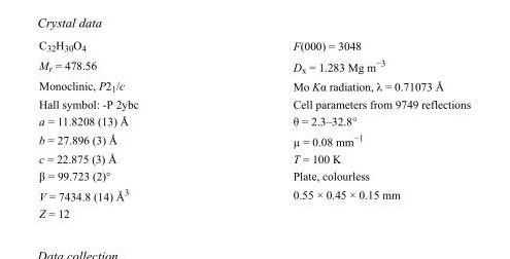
<table><tbody><tr><td>C<sub>32</sub>H<sub>30</sub>O<sub>4</sub></td><td>F(000) = 3048</td></tr><tr><td>M<sub>r</sub> = 478.56</td><td>D<sub>x</sub> = 1.283 Mg m<sup>−3</sup></td></tr><tr><td>Monoclinic, P2<sub>1</sub>/c</td><td>Mo Kα radiation, λ = 0.71073 Å</td></tr><tr><td>Hall symbol: -P 2ybc</td><td>Cell parameters from 9749 reflections</td></tr><tr><td>a = 11.8208 (13) Å</td><td>θ = 2.3–32.8°</td></tr><tr><td>b = 27.896 (3) Å</td><td>µ = 0.08 mm<sup>−1</sup></td></tr><tr><td>c = 22.875 (3) Å</td><td>T = 100 K</td></tr><tr><td>β = 99.723 (2)°</td><td>Plate, colourless</td></tr><tr><td>V = 7434.8 (14) Å<sup>3</sup></td><td>0.55 × 0.45 × 0.15 mm</td></tr><tr><td>Z = 12</td><td></td></tr></tbody></table>